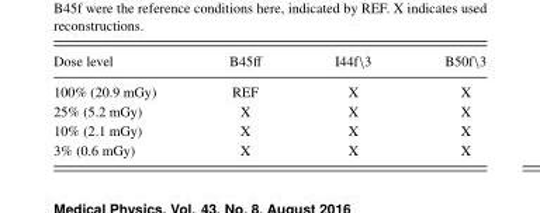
<table><thead><tr><td>Dose level</td><td>B45ff</td><td>I44f\3</td><td>B50f\3</td></tr></thead><tbody><tr><td>100% (20.9 mGy)</td><td>REF</td><td>X</td><td>X</td></tr><tr><td>25% (5.2 mGy)</td><td>X</td><td>X</td><td>X</td></tr><tr><td>10% (2.1 mGy)</td><td>X</td><td>X</td><td>X</td></tr><tr><td>3% (0.6 mGy)</td><td>X</td><td>X</td><td>X</td></tr></tbody></table>